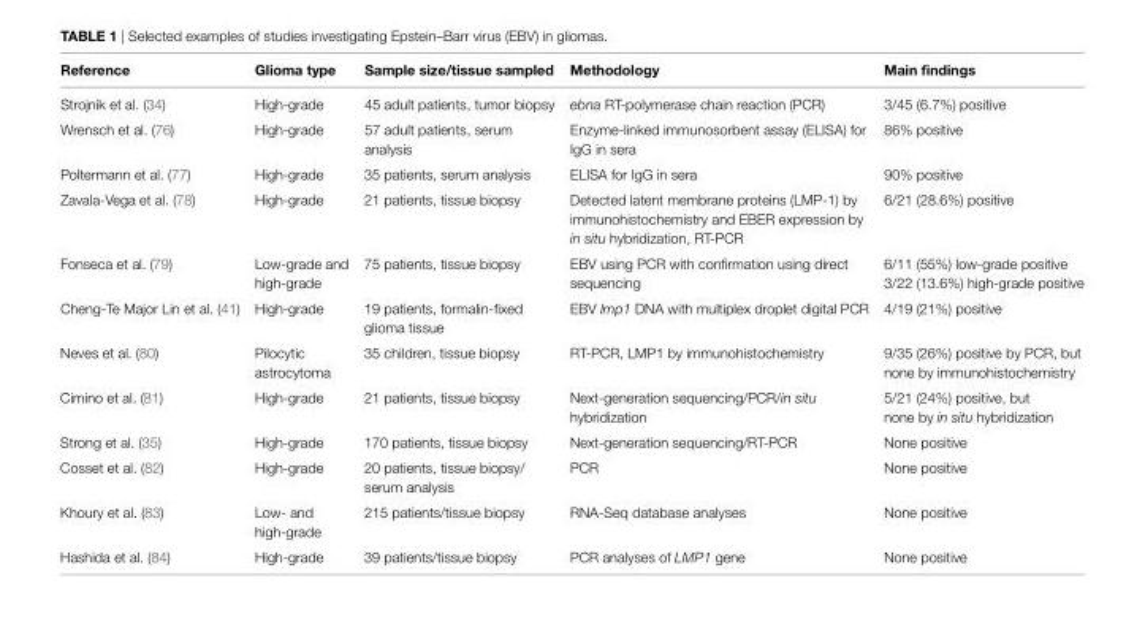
<table><thead><tr><td>Reference</td><td>Glioma type</td><td>Sample size/tissue sampled</td><td>Methodology</td><td>Main findings</td></tr></thead><tbody><tr><td>Strojnik et al. (34)</td><td>High-grade</td><td>45 adult patients, tumor biopsy</td><td>ebna RT-polymerase chain reaction (PCR)</td><td>3/45 (6.7%) positive</td></tr><tr><td>Wrensch et al. (76)</td><td>High-grade</td><td>57 adult patients, serum analysis</td><td>Enzyme-linked immunosorbent assay (ELISA) for IgG in sera</td><td>86% positive</td></tr><tr><td>Poltermann et al. (77)</td><td>High-grade</td><td>35 patients, serum analysis</td><td>ELISA for IgG in sera</td><td>90% positive</td></tr><tr><td>Zavala-Vega et al. (78)</td><td>High-grade</td><td>21 patients, tissue biopsy</td><td>Detected latent membrane proteins (LMP-1) by immunohistochemistry and EBER expression by in situ hybridization, RT-PCR</td><td>6/21 (28.6%) positive</td></tr><tr><td>Fonseca et al. (79)</td><td>Low-grade and high-grade</td><td>75 patients, tissue biopsy</td><td>EBV using PCR with confirmation using direct sequencing</td><td>6/11 (55%) low-grade positive 3/22 (13.6%) high-grade positive</td></tr><tr><td>Cheng-Te Major Lin et al. (41)</td><td>High-grade</td><td>19 patients, formalin-fixed glioma tissue</td><td>EBV lmp1 DNA with multiplex droplet digital PCR</td><td>4/19 (21%) positive</td></tr><tr><td>Neves et al. (80)</td><td>Pilocytic astrocytoma</td><td>35 children, tissue biopsy</td><td>RT-PCR, LMP1 by immunohistochemistry</td><td>9/35 (26%) positive by PCR, but none by immunohistochemistry</td></tr><tr><td>Cimino et al. (81)</td><td>High-grade</td><td>21 patients, tissue biopsy</td><td>Next-generation sequencing/PCR/in situ hybridization</td><td>5/21 (24%) positive, but none by in situ hybridization</td></tr><tr><td>Strong et al. (35)</td><td>High-grade</td><td>170 patients, tissue biopsy</td><td>Next-generation sequencing/RT-PCR</td><td>None positive</td></tr><tr><td>Cosset et al. (82)</td><td>High-grade</td><td>20 patients, tissue biopsy/ serum analysis</td><td>PCR</td><td>None positive</td></tr><tr><td>Khoury et al. (83)</td><td>Low- and high-grade</td><td>215 patients/tissue biopsy</td><td>RNA-Seq database analyses</td><td>None positive</td></tr><tr><td>Hashida et al. (84)</td><td>High-grade</td><td>39 patients/tissue biopsy</td><td>PCR analyses of LMP1 gene</td><td>None positive</td></tr></tbody></table>